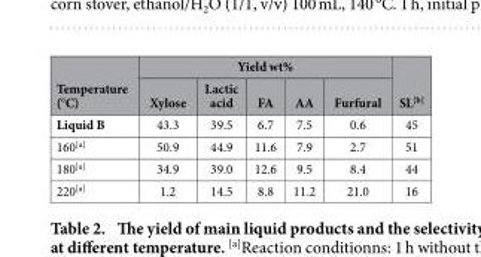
<table><thead><tr><td rowspan="2">Temperature (°C)</td><td colspan="5">Yield wt%</td><td rowspan="2">SL[b]</td></tr><tr><td>Xylose</td><td>Lactic acid</td><td>FA</td><td>AA</td><td>Furfural</td></tr></thead><tbody><tr><td>Liquid B</td><td>43.3</td><td>39.5</td><td>6.7</td><td>7.5</td><td>0.6</td><td>45</td></tr><tr><td>160[a]</td><td>50.9</td><td>44.9</td><td>11.6</td><td>7.9</td><td>2.7</td><td>51</td></tr><tr><td>180[a]</td><td>34.9</td><td>39.0</td><td>12.6</td><td>9.5</td><td>8.4</td><td>44</td></tr><tr><td>220[a]</td><td>1.2</td><td>14.5</td><td>8.8</td><td>11.2</td><td>21.0</td><td>16</td></tr></tbody></table>